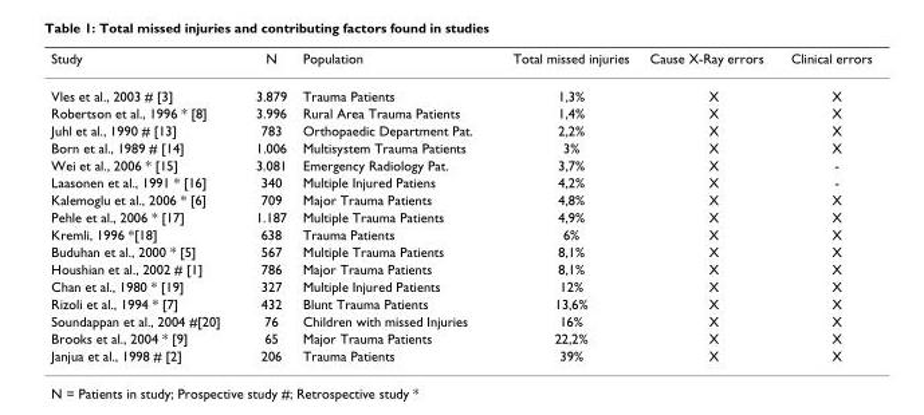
<table><thead><tr><td>Study</td><td>N</td><td>Population</td><td>Total missed injuries</td><td>Cause X-Ray errors</td><td>Clinical errors</td></tr></thead><tbody><tr><td>Vles et al., 2003 # [3]</td><td>3.879</td><td>Trauma Patients</td><td>1,3%</td><td>X</td><td>X</td></tr><tr><td>Robertson et al., 1996 * [8]</td><td>3.996</td><td>Rural Area Trauma Patients</td><td>1,4%</td><td>X</td><td>X</td></tr><tr><td>Juhl et al., 1990 # [13]</td><td>783</td><td>Orthopaedic Department Pat.</td><td>2,2%</td><td>X</td><td>X</td></tr><tr><td>Born et al., 1989 # [14]</td><td>1.006</td><td>Multisystem Trauma Patients</td><td>3%</td><td>X</td><td>X</td></tr><tr><td>Wei et al., 2006 * [15]</td><td>3.081</td><td>Emergency Radiology Pat.</td><td>3,7%</td><td>X</td><td>-</td></tr><tr><td>Laasonen et al., 1991 * [16]</td><td>340</td><td>Multiple Injured Patiens</td><td>4,2%</td><td>X</td><td>-</td></tr><tr><td>Kalemoglu et al., 2006 * [6]</td><td>709</td><td>Major Trauma Patients</td><td>4,8%</td><td>X</td><td>X</td></tr><tr><td>Pehle et al., 2006 * [17]</td><td>1.187</td><td>Multiple Trauma Patients</td><td>4,9%</td><td>X</td><td>X</td></tr><tr><td>Kremli, 1996 *[18]</td><td>638</td><td>Trauma Patients</td><td>6%</td><td>X</td><td>X</td></tr><tr><td>Buduhan et al., 2000 * [5]</td><td>567</td><td>Multiple Trauma Patients</td><td>8,1%</td><td>X</td><td>X</td></tr><tr><td>Houshian et al., 2002 # [1]</td><td>786</td><td>Major Trauma Patients</td><td>8,1%</td><td>X</td><td>X</td></tr><tr><td>Chan et al., 1980 * [19]</td><td>327</td><td>Multiple Injured Patients</td><td>12%</td><td>X</td><td>X</td></tr><tr><td>Rizoli et al., 1994 * [7]</td><td>432</td><td>Blunt Trauma Patients</td><td>13,6%</td><td>X</td><td>X</td></tr><tr><td>Soundappan et al., 2004 #[20]</td><td>76</td><td>Children with missed Injuries</td><td>16%</td><td>X</td><td>X</td></tr><tr><td>Brooks et al., 2004 * [9]</td><td>65</td><td>Major Trauma Patients</td><td>22,2%</td><td>X</td><td>X</td></tr><tr><td>Janjua et al., 1998 # [2]</td><td>206</td><td>Trauma Patients</td><td>39%</td><td>X</td><td>X</td></tr></tbody></table>